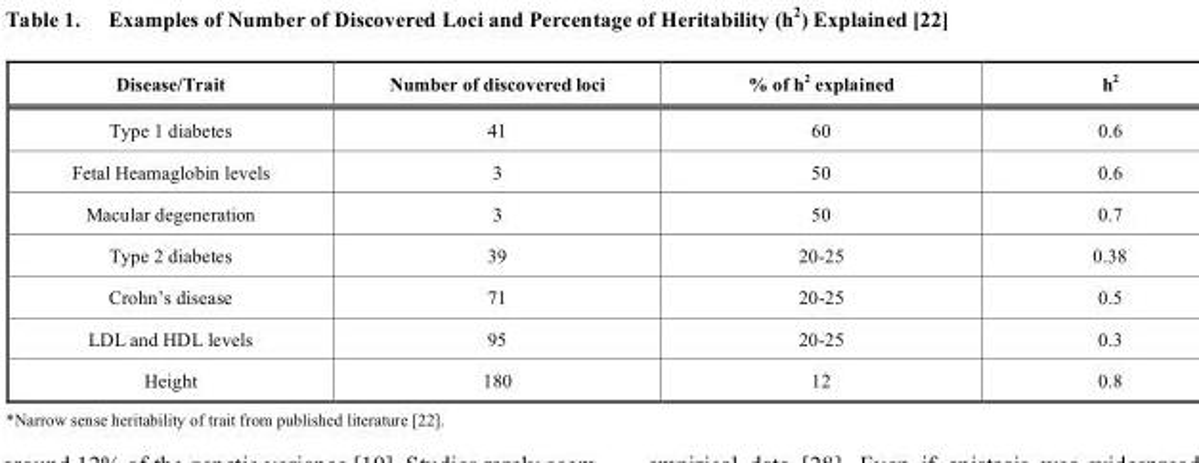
<table><thead><tr><td>Disease/Trait</td><td>Number of discovered loci</td><td>% of h<sup>2</sup> explained</td><td>h<sup>2</sup></td></tr></thead><tbody><tr><td>Type 1 diabetes</td><td>41</td><td>60</td><td>0.6</td></tr><tr><td>Fetal Heamaglobin levels</td><td>3</td><td>50</td><td>0.6</td></tr><tr><td>Macular degeneration</td><td>3</td><td>50</td><td>0.7</td></tr><tr><td>Type 2 diabetes</td><td>39</td><td>20-25</td><td>0.38</td></tr><tr><td>Crohn’s disease</td><td>71</td><td>20-25</td><td>0.5</td></tr><tr><td>LDL and HDL levels</td><td>95</td><td>20-25</td><td>0.3</td></tr><tr><td>Height</td><td>180</td><td>12</td><td>0.8</td></tr></tbody></table>